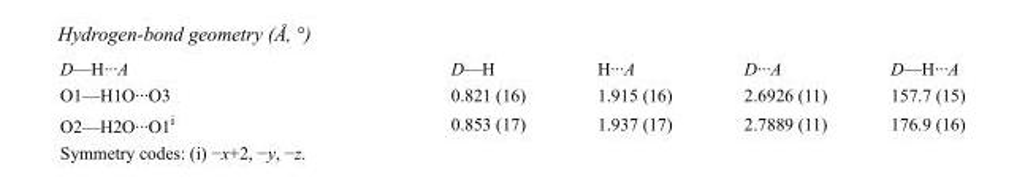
<table><tbody><tr><td>D—H···A</td><td>D—H</td><td>H···A</td><td>D···A</td><td>D—H···A</td></tr><tr><td>O1—H1O···O3</td><td>0.821 (16)</td><td>1.915 (16)</td><td>2.6926 (11)</td><td>157.7 (15)</td></tr><tr><td>O2—H2O···O1<sup>i</sup></td><td>0.853 (17)</td><td>1.937 (17)</td><td>2.7889 (11)</td><td>176.9 (16)</td></tr></tbody></table>